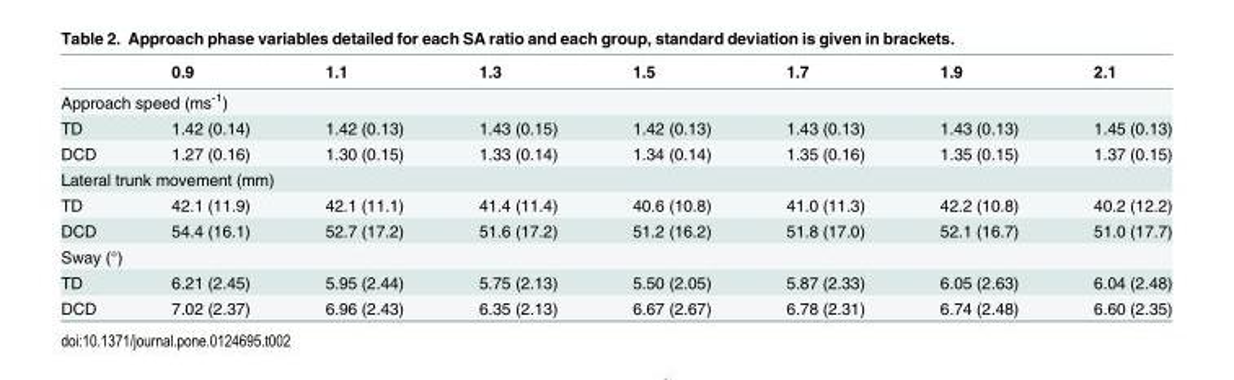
<table><thead><tr><td></td><td>0.9</td><td>1.1</td><td>1.3</td><td>1.5</td><td>1.7</td><td>1.9</td><td>2.1</td></tr></thead><tbody><tr><td colspan="8">Approach speed (ms<sup>-1</sup>)</td></tr><tr><td>TD</td><td>1.42 (0.14)</td><td>1.42 (0.13)</td><td>1.43 (0.15)</td><td>1.42 (0.13)</td><td>1.43 (0.13)</td><td>1.43 (0.13)</td><td>1.45 (0.13)</td></tr><tr><td>DCD</td><td>1.27 (0.16)</td><td>1.30 (0.15)</td><td>1.33 (0.14)</td><td>1.34 (0.14)</td><td>1.35 (0.16)</td><td>1.35 (0.15)</td><td>1.37 (0.15)</td></tr><tr><td colspan="8">Lateral trunk movement (mm)</td></tr><tr><td>TD</td><td>42.1 (11.9)</td><td>42.1 (11.1)</td><td>41.4 (11.4)</td><td>40.6 (10.8)</td><td>41.0 (11.3)</td><td>42.2 (10.8)</td><td>40.2 (12.2)</td></tr><tr><td>DCD</td><td>54.4 (16.1)</td><td>52.7 (17.2)</td><td>51.6 (17.2)</td><td>51.2 (16.2)</td><td>51.8 (17.0)</td><td>52.1 (16.7)</td><td>51.0 (17.7)</td></tr><tr><td colspan="8">Sway (°)</td></tr><tr><td>TD</td><td>6.21 (2.45)</td><td>5.95 (2.44)</td><td>5.75 (2.13)</td><td>5.50 (2.05)</td><td>5.87 (2.33)</td><td>6.05 (2.63)</td><td>6.04 (2.48)</td></tr><tr><td>DCD</td><td>7.02 (2.37)</td><td>6.96 (2.43)</td><td>6.35 (2.13)</td><td>6.67 (2.67)</td><td>6.78 (2.31)</td><td>6.74 (2.48)</td><td>6.60 (2.35)</td></tr></tbody></table>